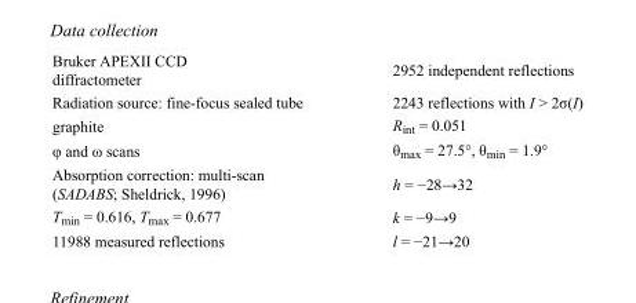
<table><tbody><tr><td>Bruker APEXII CCD diffractometer</td><td>2952 independent reflections</td></tr><tr><td>Radiation source: fine-focus sealed tube</td><td>2243 reflections with I &gt; 2σ(I)</td></tr><tr><td>graphite</td><td>R<sub>int</sub> = 0.051</td></tr><tr><td>φ and ω scans</td><td>θ<sub>max</sub> = 27.5°, θ<sub>min</sub> = 1.9°</td></tr><tr><td>Absorption correction: multi-scan (SADABS; Sheldrick, 1996)</td><td>h = −28→32</td></tr><tr><td>T<sub>min</sub> = 0.616, T<sub>max</sub> = 0.677</td><td>k = −9→9</td></tr><tr><td>11988 measured reflections</td><td>l = −21→20</td></tr></tbody></table>